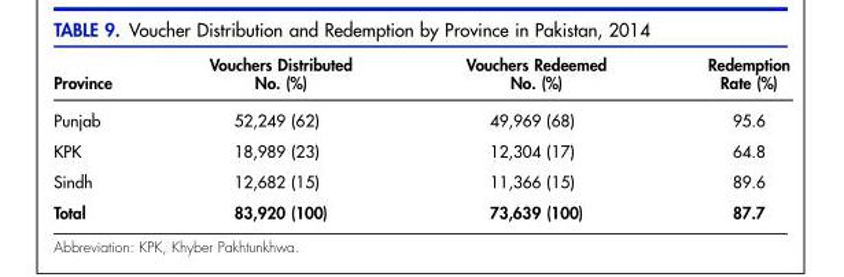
<table><thead><tr><td>Province</td><td>Vouchers Distributed No. (%)</td><td>Vouchers Redeemed No. (%)</td><td>Redemption Rate (%)</td></tr></thead><tbody><tr><td>Punjab</td><td>52,249 (62)</td><td>49,969 (68)</td><td>95.6</td></tr><tr><td>KPK</td><td>18,989 (23)</td><td>12,304 (17)</td><td>64.8</td></tr><tr><td>Sindh</td><td>12,682 (15)</td><td>11,366 (15)</td><td>89.6</td></tr><tr><td>Total</td><td>83,920 (100)</td><td>73,639 (100)</td><td>87.7</td></tr></tbody></table>